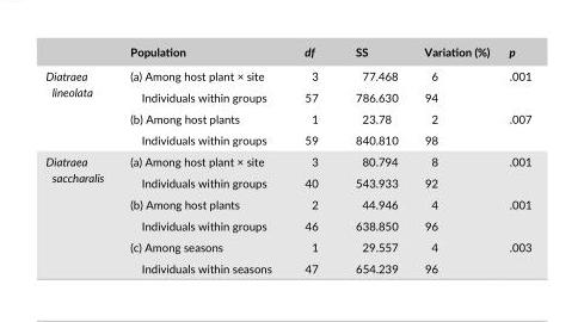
<table><thead><tr><td></td><td>Population</td><td>df</td><td>SS</td><td>Variation (%)</td><td>p</td></tr></thead><tbody><tr><td rowspan="4">Diatraea lineolata</td><td>(a) Among host plant × site</td><td>3</td><td>77.468</td><td>6</td><td>.001</td></tr><tr><td>Individuals within groups</td><td>57</td><td>786.630</td><td>94</td><td></td></tr><tr><td>(b) Among host plants</td><td>1</td><td>23.78</td><td>2</td><td>.007</td></tr><tr><td>Individuals within groups</td><td>59</td><td>840.810</td><td>98</td><td></td></tr><tr><td rowspan="6">Diatraea saccharalis</td><td>(a) Among host plant × site</td><td>3</td><td>80.794</td><td>8</td><td>.001</td></tr><tr><td>Individuals within groups</td><td>40</td><td>543.933</td><td>92</td><td></td></tr><tr><td>(b) Among host plants</td><td>2</td><td>44.946</td><td>4</td><td>.001</td></tr><tr><td>Individuals within groups</td><td>46</td><td>638.850</td><td>96</td><td></td></tr><tr><td>(c) Among seasons</td><td>1</td><td>29.557</td><td>4</td><td>.003</td></tr><tr><td>Individuals within seasons</td><td>47</td><td>654.239</td><td>96</td><td></td></tr></tbody></table>